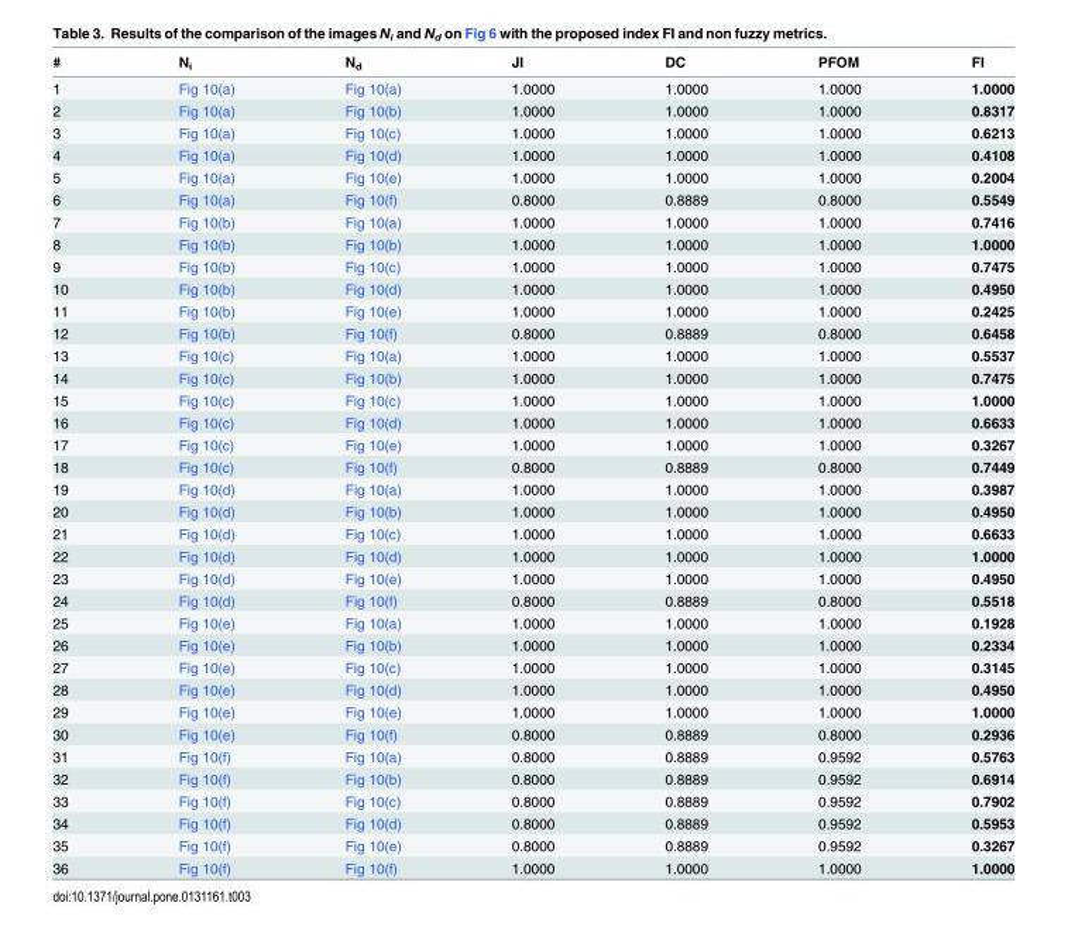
<table><thead><tr><td>#</td><td>N<sub>i</sub></td><td>N<sub>d</sub></td><td>JI</td><td>DC</td><td>PFOM</td><td>FI</td></tr></thead><tbody><tr><td>1</td><td>Fig 10(a)</td><td>Fig 10(a)</td><td>1.0000</td><td>1.0000</td><td>1.0000</td><td>1.0000</td></tr><tr><td>2</td><td>Fig 10(a)</td><td>Fig 10(b)</td><td>1.0000</td><td>1.0000</td><td>1.0000</td><td>0.8317</td></tr><tr><td>3</td><td>Fig 10(a)</td><td>Fig 10(c)</td><td>1.0000</td><td>1.0000</td><td>1.0000</td><td>0.6213</td></tr><tr><td>4</td><td>Fig 10(a)</td><td>Fig 10(d)</td><td>1.0000</td><td>1.0000</td><td>1.0000</td><td>0.4108</td></tr><tr><td>5</td><td>Fig 10(a)</td><td>Fig 10(e)</td><td>1.0000</td><td>1.0000</td><td>1.0000</td><td>0.2004</td></tr><tr><td>6</td><td>Fig 10(a)</td><td>Fig 10(f)</td><td>0.8000</td><td>0.8889</td><td>0.8000</td><td>0.5549</td></tr><tr><td>7</td><td>Fig 10(b)</td><td>Fig 10(a)</td><td>1.0000</td><td>1.0000</td><td>1.0000</td><td>0.7416</td></tr><tr><td>8</td><td>Fig 10(b)</td><td>Fig 10(b)</td><td>1.0000</td><td>1.0000</td><td>1.0000</td><td>1.0000</td></tr><tr><td>9</td><td>Fig 10(b)</td><td>Fig 10(c)</td><td>1.0000</td><td>1.0000</td><td>1.0000</td><td>0.7475</td></tr><tr><td>10</td><td>Fig 10(b)</td><td>Fig 10(d)</td><td>1.0000</td><td>1.0000</td><td>1.0000</td><td>0.4950</td></tr><tr><td>11</td><td>Fig 10(b)</td><td>Fig 10(e)</td><td>1.0000</td><td>1.0000</td><td>1.0000</td><td>0.2425</td></tr><tr><td>12</td><td>Fig 10(b)</td><td>Fig 10(f)</td><td>0.8000</td><td>0.8889</td><td>0.8000</td><td>0.6458</td></tr><tr><td>13</td><td>Fig 10(c)</td><td>Fig 10(a)</td><td>1.0000</td><td>1.0000</td><td>1.0000</td><td>0.5537</td></tr><tr><td>14</td><td>Fig 10(c)</td><td>Fig 10(b)</td><td>1.0000</td><td>1.0000</td><td>1.0000</td><td>0.7475</td></tr><tr><td>15</td><td>Fig 10(c)</td><td>Fig 10(c)</td><td>1.0000</td><td>1.0000</td><td>1.0000</td><td>1.0000</td></tr><tr><td>16</td><td>Fig 10(c)</td><td>Fig 10(d)</td><td>1.0000</td><td>1.0000</td><td>1.0000</td><td>0.6633</td></tr><tr><td>17</td><td>Fig 10(c)</td><td>Fig 10(e)</td><td>1.0000</td><td>1.0000</td><td>1.0000</td><td>0.3267</td></tr><tr><td>18</td><td>Fig 10(c)</td><td>Fig 10(f)</td><td>0.8000</td><td>0.8889</td><td>0.8000</td><td>0.7449</td></tr><tr><td>19</td><td>Fig 10(d)</td><td>Fig 10(a)</td><td>1.0000</td><td>1.0000</td><td>1.0000</td><td>0.3987</td></tr><tr><td>20</td><td>Fig 10(d)</td><td>Fig 10(b)</td><td>1.0000</td><td>1.0000</td><td>1.0000</td><td>0.4950</td></tr><tr><td>21</td><td>Fig 10(d)</td><td>Fig 10(c)</td><td>1.0000</td><td>1.0000</td><td>1.0000</td><td>0.6633</td></tr><tr><td>22</td><td>Fig 10(d)</td><td>Fig 10(d)</td><td>1.0000</td><td>1.0000</td><td>1.0000</td><td>1.0000</td></tr><tr><td>23</td><td>Fig 10(d)</td><td>Fig 10(e)</td><td>1.0000</td><td>1.0000</td><td>1.0000</td><td>0.4950</td></tr><tr><td>24</td><td>Fig 10(d)</td><td>Fig 10(f)</td><td>0.8000</td><td>0.8889</td><td>0.8000</td><td>0.5518</td></tr><tr><td>25</td><td>Fig 10(e)</td><td>Fig 10(a)</td><td>1.0000</td><td>1.0000</td><td>1.0000</td><td>0.1928</td></tr><tr><td>26</td><td>Fig 10(e)</td><td>Fig 10(b)</td><td>1.0000</td><td>1.0000</td><td>1.0000</td><td>0.2334</td></tr><tr><td>27</td><td>Fig 10(e)</td><td>Fig 10(c)</td><td>1.0000</td><td>1.0000</td><td>1.0000</td><td>0.3145</td></tr><tr><td>28</td><td>Fig 10(e)</td><td>Fig 10(d)</td><td>1.0000</td><td>1.0000</td><td>1.0000</td><td>0.4950</td></tr><tr><td>29</td><td>Fig 10(e)</td><td>Fig 10(e)</td><td>1.0000</td><td>1.0000</td><td>1.0000</td><td>1.0000</td></tr><tr><td>30</td><td>Fig 10(e)</td><td>Fig 10(f)</td><td>0.8000</td><td>0.8889</td><td>0.8000</td><td>0.2936</td></tr><tr><td>31</td><td>Fig 10(f)</td><td>Fig 10(a)</td><td>0.8000</td><td>0.8889</td><td>0.9592</td><td>0.5763</td></tr><tr><td>32</td><td>Fig 10(f)</td><td>Fig 10(b)</td><td>0.8000</td><td>0.8889</td><td>0.9592</td><td>0.6914</td></tr><tr><td>33</td><td>Fig 10(f)</td><td>Fig 10(c)</td><td>0.8000</td><td>0.8889</td><td>0.9592</td><td>0.7902</td></tr><tr><td>34</td><td>Fig 10(f)</td><td>Fig 10(d)</td><td>0.8000</td><td>0.8889</td><td>0.9592</td><td>0.5953</td></tr><tr><td>35</td><td>Fig 10(f)</td><td>Fig 10(e)</td><td>0.8000</td><td>0.8889</td><td>0.9592</td><td>0.3267</td></tr><tr><td>36</td><td>Fig 10(f)</td><td>Fig 10(f)</td><td>1.0000</td><td>1.0000</td><td>1.0000</td><td>1.0000</td></tr></tbody></table>